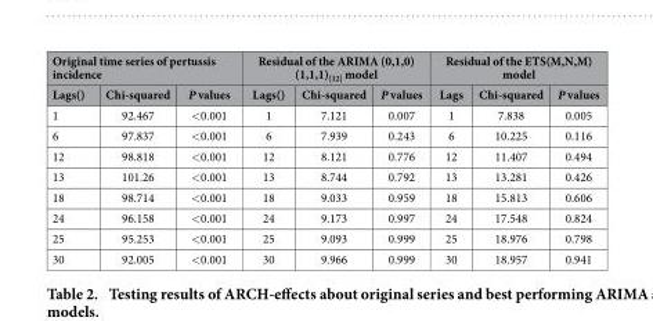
<table><thead><tr><td colspan="3">Original time series of pertussis incidence</td><td colspan="3">Residual of the ARIMA (0,1,0) (1,1,1)<sub>[12]</sub> model</td><td colspan="3">Residual of the ETS(M,N,M) model</td></tr><tr><td>Lags()</td><td>Chi-squared</td><td>P values</td><td>Lags()</td><td>Chi-squared</td><td>P values</td><td>Lags</td><td>Chi-squared</td><td>P values</td></tr></thead><tbody><tr><td>1</td><td>92.467</td><td>&lt; 0.001</td><td>1</td><td>7.121</td><td>0.007</td><td>1</td><td>7.838</td><td>0.005</td></tr><tr><td>6</td><td>97.837</td><td>&lt; 0.001</td><td>6</td><td>7.939</td><td>0.243</td><td>6</td><td>10.225</td><td>0.116</td></tr><tr><td>12</td><td>98.818</td><td>&lt; 0.001</td><td>12</td><td>8.121</td><td>0.776</td><td>12</td><td>11.407</td><td>0.494</td></tr><tr><td>13</td><td>101.26</td><td>&lt; 0.001</td><td>13</td><td>8.744</td><td>0.792</td><td>13</td><td>13.281</td><td>0.426</td></tr><tr><td>18</td><td>98.714</td><td>&lt; 0.001</td><td>18</td><td>9.033</td><td>0.959</td><td>18</td><td>15.813</td><td>0.606</td></tr><tr><td>24</td><td>96.158</td><td>&lt; 0.001</td><td>24</td><td>9.173</td><td>0.997</td><td>24</td><td>17.548</td><td>0.824</td></tr><tr><td>25</td><td>95.253</td><td>&lt; 0.001</td><td>25</td><td>9.093</td><td>0.999</td><td>25</td><td>18.976</td><td>0.798</td></tr><tr><td>30</td><td>92.005</td><td>&lt; 0.001</td><td>30</td><td>9.966</td><td>0.999</td><td>30</td><td>18.957</td><td>0.941</td></tr></tbody></table>